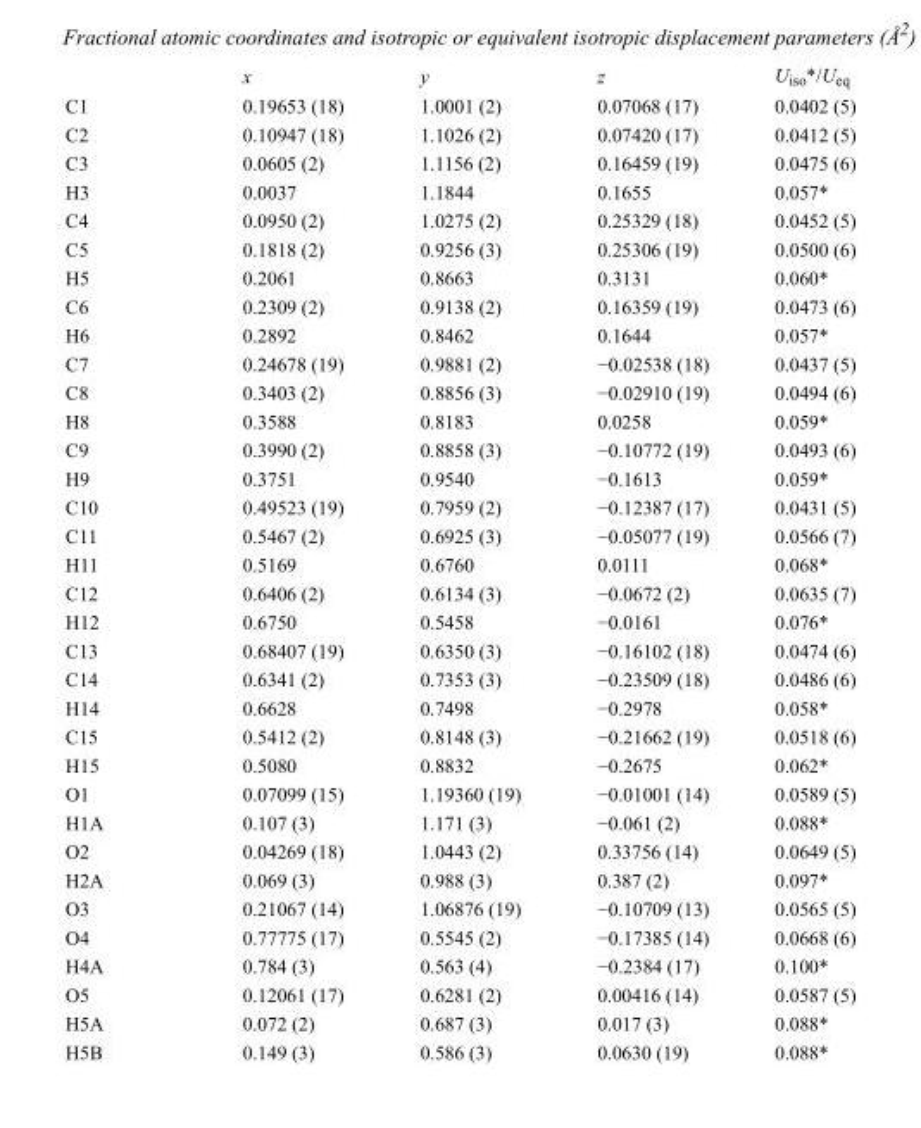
<table><thead><tr><td></td><td>x</td><td>y</td><td>z</td><td>U<sub>iso</sub>*/U<sub>eq</sub></td></tr></thead><tbody><tr><td>C1</td><td>0.19653 (18)</td><td>1.0001 (2)</td><td>0.07068 (17)</td><td>0.0402 (5)</td></tr><tr><td>C2</td><td>0.10947 (18)</td><td>1.1026 (2)</td><td>0.07420 (17)</td><td>0.0412 (5)</td></tr><tr><td>C3</td><td>0.0605 (2)</td><td>1.1156 (2)</td><td>0.16459 (19)</td><td>0.0475 (6)</td></tr><tr><td>H3</td><td>0.0037</td><td>1.1844</td><td>0.1655</td><td>0.057*</td></tr><tr><td>C4</td><td>0.0950 (2)</td><td>1.0275 (2)</td><td>0.25329 (18)</td><td>0.0452 (5)</td></tr><tr><td>C5</td><td>0.1818 (2)</td><td>0.9256 (3)</td><td>0.25306 (19)</td><td>0.0500 (6)</td></tr><tr><td>H5</td><td>0.2061</td><td>0.8663</td><td>0.3131</td><td>0.060*</td></tr><tr><td>C6</td><td>0.2309 (2)</td><td>0.9138 (2)</td><td>0.16359 (19)</td><td>0.0473 (6)</td></tr><tr><td>H6</td><td>0.2892</td><td>0.8462</td><td>0.1644</td><td>0.057*</td></tr><tr><td>C7</td><td>0.24678 (19)</td><td>0.9881 (2)</td><td>−0.02538 (18)</td><td>0.0437 (5)</td></tr><tr><td>C8</td><td>0.3403 (2)</td><td>0.8856 (3)</td><td>−0.02910 (19)</td><td>0.0494 (6)</td></tr><tr><td>H8</td><td>0.3588</td><td>0.8183</td><td>0.0258</td><td>0.059*</td></tr><tr><td>C9</td><td>0.3990 (2)</td><td>0.8858 (3)</td><td>−0.10772 (19)</td><td>0.0493 (6)</td></tr><tr><td>H9</td><td>0.3751</td><td>0.9540</td><td>−0.1613</td><td>0.059*</td></tr><tr><td>C10</td><td>0.49523 (19)</td><td>0.7959 (2)</td><td>−0.12387 (17)</td><td>0.0431 (5)</td></tr><tr><td>C11</td><td>0.5467 (2)</td><td>0.6925 (3)</td><td>−0.05077 (19)</td><td>0.0566 (7)</td></tr><tr><td>H11</td><td>0.5169</td><td>0.6760</td><td>0.0111</td><td>0.068*</td></tr><tr><td>C12</td><td>0.6406 (2)</td><td>0.6134 (3)</td><td>−0.0672 (2)</td><td>0.0635 (7)</td></tr><tr><td>H12</td><td>0.6750</td><td>0.5458</td><td>−0.0161</td><td>0.076*</td></tr><tr><td>C13</td><td>0.68407 (19)</td><td>0.6350 (3)</td><td>−0.16102 (18)</td><td>0.0474 (6)</td></tr><tr><td>C14</td><td>0.6341 (2)</td><td>0.7353 (3)</td><td>−0.23509 (18)</td><td>0.0486 (6)</td></tr><tr><td>H14</td><td>0.6628</td><td>0.7498</td><td>−0.2978</td><td>0.058*</td></tr><tr><td>C15</td><td>0.5412 (2)</td><td>0.8148 (3)</td><td>−0.21662 (19)</td><td>0.0518 (6)</td></tr><tr><td>H15</td><td>0.5080</td><td>0.8832</td><td>−0.2675</td><td>0.062*</td></tr><tr><td>O1</td><td>0.07099 (15)</td><td>1.19360 (19)</td><td>−0.01001 (14)</td><td>0.0589 (5)</td></tr><tr><td>H1A</td><td>0.107 (3)</td><td>1.171 (3)</td><td>−0.061 (2)</td><td>0.088*</td></tr><tr><td>O2</td><td>0.04269 (18)</td><td>1.0443 (2)</td><td>0.33756 (14)</td><td>0.0649 (5)</td></tr><tr><td>H2A</td><td>0.069 (3)</td><td>0.988 (3)</td><td>0.387 (2)</td><td>0.097*</td></tr><tr><td>O3</td><td>0.21067 (14)</td><td>1.06876 (19)</td><td>−0.10709 (13)</td><td>0.0565 (5)</td></tr><tr><td>O4</td><td>0.77775 (17)</td><td>0.5545 (2)</td><td>−0.17385 (14)</td><td>0.0668 (6)</td></tr><tr><td>H4A</td><td>0.784 (3)</td><td>0.563 (4)</td><td>−0.2384 (17)</td><td>0.100*</td></tr><tr><td>O5</td><td>0.12061 (17)</td><td>0.6281 (2)</td><td>0.00416 (14)</td><td>0.0587 (5)</td></tr><tr><td>H5A</td><td>0.072 (2)</td><td>0.687 (3)</td><td>0.017 (3)</td><td>0.088*</td></tr><tr><td>H5B</td><td>0.149 (3)</td><td>0.586 (3)</td><td>0.0630 (19)</td><td>0.088*</td></tr></tbody></table>